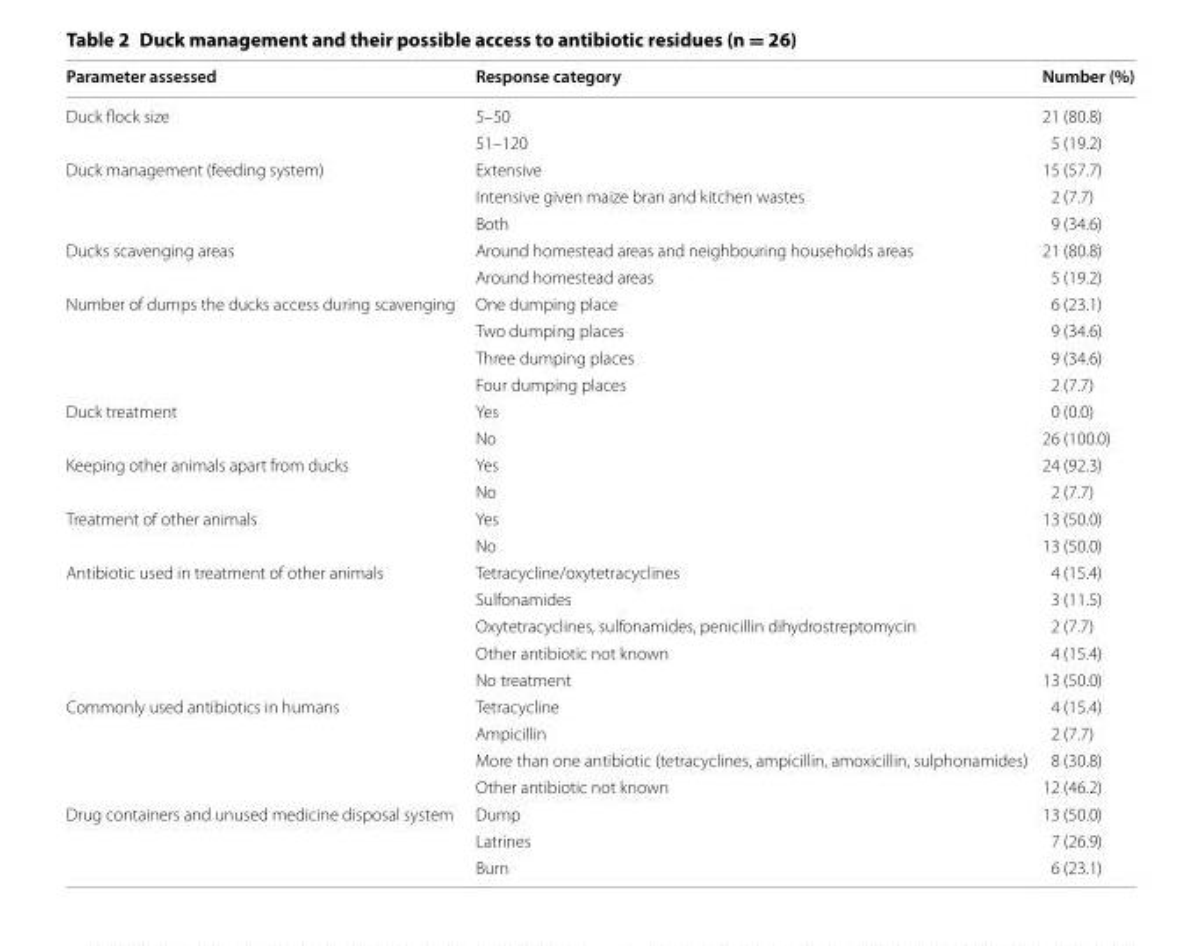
<table><thead><tr><td>Parameter assessed</td><td>Response category</td><td>Number (%)</td></tr></thead><tbody><tr><td rowspan="2">Duck flock size</td><td>5–50</td><td>21 (80.8)</td></tr><tr><td>51–120</td><td>5 (19.2)</td></tr><tr><td rowspan="3">Duck management (feeding system)</td><td>Extensive</td><td>15 (57.7)</td></tr><tr><td>Intensive given maize bran and kitchen wastes</td><td>2 (7.7)</td></tr><tr><td>Both</td><td>9 (34.6)</td></tr><tr><td rowspan="2">Ducks scavenging areas</td><td>Around homestead areas and neighbouring households areas</td><td>21 (80.8)</td></tr><tr><td>Around homestead areas</td><td>5 (19.2)</td></tr><tr><td rowspan="4">Number of dumps the ducks access during scavenging</td><td>One dumping place</td><td>6 (23.1)</td></tr><tr><td>Two dumping places</td><td>9 (34.6)</td></tr><tr><td>Three dumping places</td><td>9 (34.6)</td></tr><tr><td>Four dumping places</td><td>2 (7.7)</td></tr><tr><td rowspan="2">Duck treatment</td><td>Yes</td><td>0 (0.0)</td></tr><tr><td>No</td><td>26 (100.0)</td></tr><tr><td rowspan="2">Keeping other animals apart from ducks</td><td>Yes</td><td>24 (92.3)</td></tr><tr><td>No</td><td>2 (7.7)</td></tr><tr><td rowspan="2">Treatment of other animals</td><td>Yes</td><td>13 (50.0)</td></tr><tr><td>No</td><td>13 (50.0)</td></tr><tr><td rowspan="5">Antibiotic used in treatment of other animals</td><td>Tetracycline/oxytetracyclines</td><td>4 (15.4)</td></tr><tr><td>Sulfonamides</td><td>3 (11.5)</td></tr><tr><td>Oxytetracyclines, sulfonamides, penicillin dihydrostreptomycin</td><td>2 (7.7)</td></tr><tr><td>Other antibiotic not known</td><td>4 (15.4)</td></tr><tr><td>No treatment</td><td>13 (50.0)</td></tr><tr><td rowspan="4">Commonly used antibiotics in humans</td><td>Tetracycline</td><td>4 (15.4)</td></tr><tr><td>Ampicillin</td><td>2 (7.7)</td></tr><tr><td>More than one antibiotic (tetracyclines, ampicillin, amoxicillin, sulphonamides)</td><td>8 (30.8)</td></tr><tr><td>Other antibiotic not known</td><td>12 (46.2)</td></tr><tr><td rowspan="3">Drug containers and unused medicine disposal system</td><td>Dump</td><td>13 (50.0)</td></tr><tr><td>Latrines</td><td>7 (26.9)</td></tr><tr><td>Burn</td><td>6 (23.1)</td></tr></tbody></table>